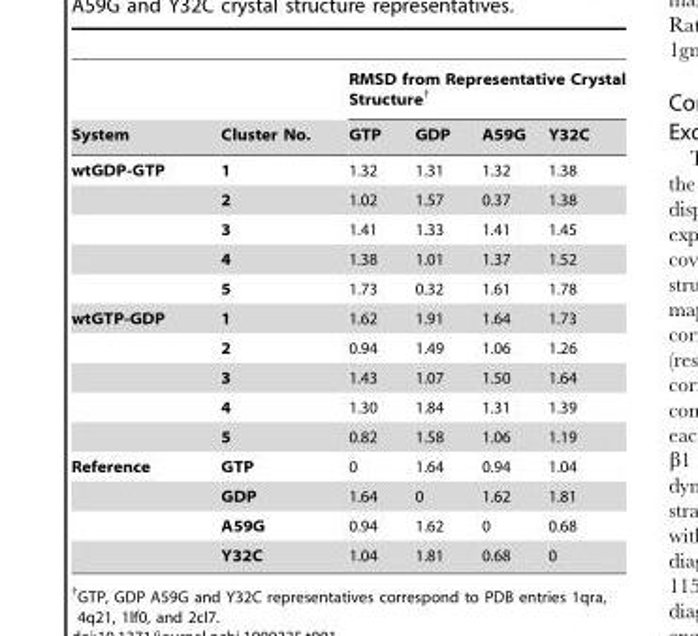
<table><thead><tr><td rowspan="2">System</td><td rowspan="2">Cluster No.</td><td colspan="4">RMSD from Representative Crystal Structure†</td></tr><tr><td>GTP</td><td>GDP</td><td>A59G</td><td>Y32C</td></tr></thead><tbody><tr><td rowspan="5">wtGDP-GTP</td><td>1</td><td>1.32</td><td>1.31</td><td>1.32</td><td>1.38</td></tr><tr><td>2</td><td>1.02</td><td>1.57</td><td>0.37</td><td>1.38</td></tr><tr><td>3</td><td>1.41</td><td>1.33</td><td>1.41</td><td>1.45</td></tr><tr><td>4</td><td>1.38</td><td>1.01</td><td>1.37</td><td>1.52</td></tr><tr><td>5</td><td>1.73</td><td>0.32</td><td>1.61</td><td>1.78</td></tr><tr><td rowspan="5">wtGTP-GDP</td><td>1</td><td>1.62</td><td>1.91</td><td>1.64</td><td>1.73</td></tr><tr><td>2</td><td>0.94</td><td>1.49</td><td>1.06</td><td>1.26</td></tr><tr><td>3</td><td>1.43</td><td>1.07</td><td>1.50</td><td>1.64</td></tr><tr><td>4</td><td>1.30</td><td>1.84</td><td>1.31</td><td>1.39</td></tr><tr><td>5</td><td>0.82</td><td>1.58</td><td>1.06</td><td>1.19</td></tr><tr><td rowspan="4">Reference</td><td>GTP</td><td>0</td><td>1.64</td><td>0.94</td><td>1.04</td></tr><tr><td>GDP</td><td>1.64</td><td>0</td><td>1.62</td><td>1.81</td></tr><tr><td>A59G</td><td>0.94</td><td>1.62</td><td>0</td><td>0.68</td></tr><tr><td>Y32C</td><td>1.04</td><td>1.81</td><td>0.68</td><td>0</td></tr></tbody></table>